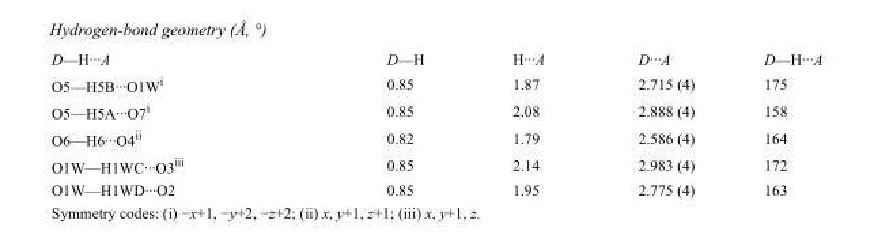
<table><tbody><tr><td>D—H···A</td><td>D—H</td><td>H···A</td><td>D···A</td><td>D—H···A</td></tr><tr><td>O5—H5B···O1W<sup>i</sup></td><td>0.85</td><td>1.87</td><td>2.715 (4)</td><td>175</td></tr><tr><td>O5—H5A···O7<sup>i</sup></td><td>0.85</td><td>2.08</td><td>2.888 (4)</td><td>158</td></tr><tr><td>O6—H6···O4<sup>ii</sup></td><td>0.82</td><td>1.79</td><td>2.586 (4)</td><td>164</td></tr><tr><td>O1W—H1WC···O3<sup>iii</sup></td><td>0.85</td><td>2.14</td><td>2.983 (4)</td><td>172</td></tr><tr><td>O1W—H1WD···O2</td><td>0.85</td><td>1.95</td><td>2.775 (4)</td><td>163</td></tr></tbody></table>